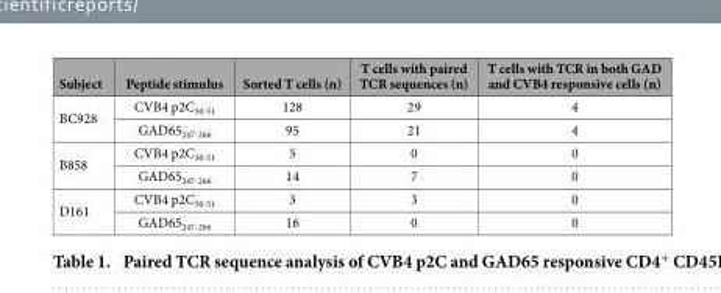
<table><thead><tr><td>Subject</td><td>Peptide stimulus</td><td>Sorted T cells (n)</td><td>T cells with paired TCR sequences (n)</td><td>T cells with TCR in both GAD and CVB4 responsive cells (n)</td></tr></thead><tbody><tr><td rowspan="2">BC928</td><td>CVB4 p2C<sub>30-51</sub></td><td>128</td><td>29</td><td>4</td></tr><tr><td>GAD65<sub>247-266</sub></td><td>95</td><td>21</td><td>4</td></tr><tr><td rowspan="2">B858</td><td>CVB4 p2C<sub>30-51</sub></td><td>5</td><td>0</td><td>0</td></tr><tr><td>GAD65<sub>247-266</sub></td><td>14</td><td>7</td><td>0</td></tr><tr><td rowspan="2">D161</td><td>CVB4 p2C<sub>30-51</sub></td><td>3</td><td>3</td><td>0</td></tr><tr><td>GAD65<sub>247-266</sub></td><td>16</td><td>0</td><td>0</td></tr></tbody></table>